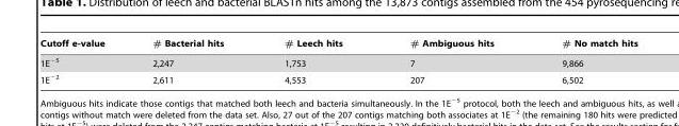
<table><thead><tr><td>Cutoff e-value</td><td># Bacterial hits</td><td># Leech hits</td><td># Ambiguous hits</td><td># No match hits</td></tr></thead><tbody><tr><td>1E<sup>−5</sup></td><td>2,247</td><td>1,753</td><td>7</td><td>9,866</td></tr><tr><td>1E<sup>−2</sup></td><td>2,611</td><td>4,553</td><td>207</td><td>6,502</td></tr></tbody></table>